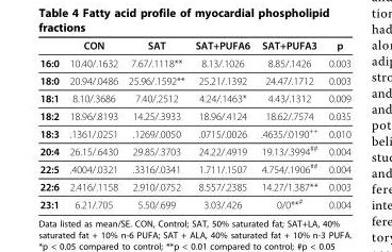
<table><thead><tr><td></td><td>CON</td><td>SAT</td><td>SAT+PUFA6</td><td>SAT+PUFA3</td><td>p</td></tr></thead><tbody><tr><td>16:0</td><td>10.40/.1632</td><td>7.67/.1118**</td><td>8.13/.1026</td><td>8.85/.1426</td><td>0.003</td></tr><tr><td>18:0</td><td>20.94/.0486</td><td>25.96/.1592**</td><td>25.21/.1392</td><td>24.47/.1712</td><td>0.003</td></tr><tr><td>18:1</td><td>8.10/.3686</td><td>7.40/.2512</td><td>4.24/.1463*</td><td>4.43/.1312</td><td>0.009</td></tr><tr><td>18:2</td><td>18.96/.8193</td><td>14.25/.3933</td><td>18.96/.4124</td><td>18.62/.7574</td><td>0.035</td></tr><tr><td>18:3</td><td>.1361/.0251</td><td>.1269/.0050</td><td>.0715/.0026</td><td>.4635/.0190<sup>++</sup></td><td>0.010</td></tr><tr><td>20:4</td><td>26.15/.6430</td><td>29.85/.3703</td><td>24.22/.4919</td><td>19.13/.3994<sup>##</sup></td><td>0.004</td></tr><tr><td>22:5</td><td>.4004/.0321</td><td>.3316/.0341</td><td>1.711/.1507</td><td>4.754/.1906<sup>##</sup></td><td>0.004</td></tr><tr><td>22:6</td><td>2.416/.1158</td><td>2.910/.0752</td><td>8.557/.2385</td><td>14.27/1.387**</td><td>0.003</td></tr><tr><td>23:1</td><td>6.21/.705</td><td>5.50/.699</td><td>3.03/.426</td><td>0/0**<sup>#</sup></td><td>0.004</td></tr></tbody></table>